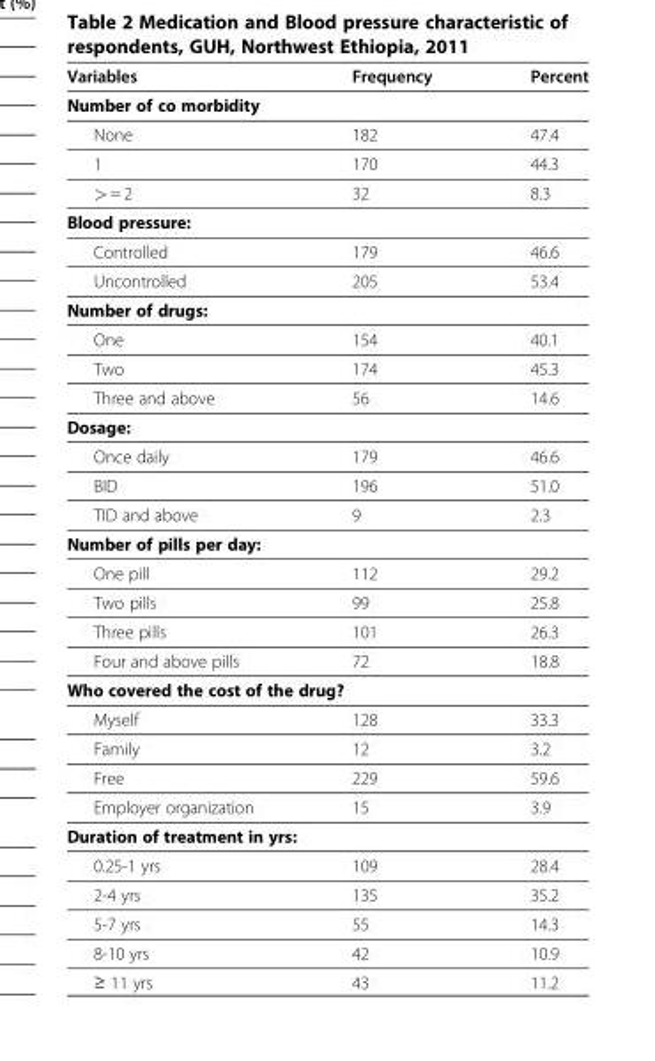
<table><thead><tr><td>Variables</td><td>Frequency</td><td>Percent</td></tr></thead><tbody><tr><td colspan="3">Number of co morbidity</td></tr><tr><td>None</td><td>182</td><td>47.4</td></tr><tr><td>1</td><td>170</td><td>44.3</td></tr><tr><td>&gt; = 2</td><td>32</td><td>8.3</td></tr><tr><td colspan="3">Blood pressure:</td></tr><tr><td>Controlled</td><td>179</td><td>46.6</td></tr><tr><td>Uncontrolled</td><td>205</td><td>53.4</td></tr><tr><td colspan="3">Number of drugs:</td></tr><tr><td>One</td><td>154</td><td>40.1</td></tr><tr><td>Two</td><td>174</td><td>45.3</td></tr><tr><td>Three and above</td><td>56</td><td>14.6</td></tr><tr><td colspan="3">Dosage:</td></tr><tr><td>Once daily</td><td>179</td><td>46.6</td></tr><tr><td>BID</td><td>196</td><td>51.0</td></tr><tr><td>TID and above</td><td>9</td><td>2.3</td></tr><tr><td colspan="3">Number of pills per day:</td></tr><tr><td>One pill</td><td>112</td><td>29.2</td></tr><tr><td>Two pills</td><td>99</td><td>25.8</td></tr><tr><td>Three pills</td><td>101</td><td>26.3</td></tr><tr><td>Four and above pills</td><td>72</td><td>18.8</td></tr><tr><td colspan="3">Who covered the cost of the drug?</td></tr><tr><td>Myself</td><td>128</td><td>33.3</td></tr><tr><td>Family</td><td>12</td><td>3.2</td></tr><tr><td>Free</td><td>229</td><td>59.6</td></tr><tr><td>Employer organization</td><td>15</td><td>3.9</td></tr><tr><td colspan="3">Duration of treatment in yrs:</td></tr><tr><td>0.25-1 yrs</td><td>109</td><td>28.4</td></tr><tr><td>2-4 yrs</td><td>135</td><td>35.2</td></tr><tr><td>5-7 yrs</td><td>55</td><td>14.3</td></tr><tr><td>8-10 yrs</td><td>42</td><td>10.9</td></tr><tr><td>≥ 11 yrs</td><td>43</td><td>11.2</td></tr></tbody></table>